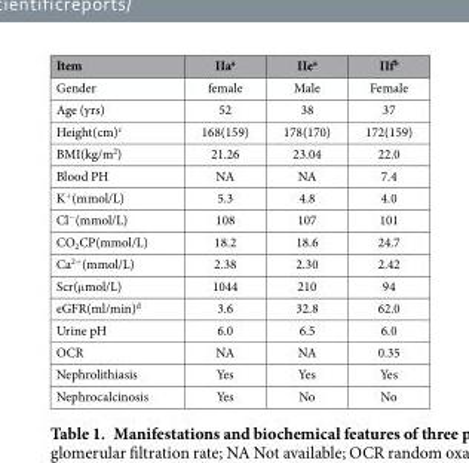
<table><thead><tr><td>Item</td><td>IIa<sup>a</sup></td><td>IIe<sup>a</sup></td><td>IIf<sup>b</sup></td></tr></thead><tbody><tr><td>Gender</td><td>female</td><td>Male</td><td>Female</td></tr><tr><td>Age (yrs)</td><td>52</td><td>38</td><td>37</td></tr><tr><td>Height(cm)<sup>c</sup></td><td>168(159)</td><td>178(170)</td><td>172(159)</td></tr><tr><td>BMI(kg/m<sup>2</sup>)</td><td>21.26</td><td>23.04</td><td>22.0</td></tr><tr><td>Blood PH</td><td>NA</td><td>NA</td><td>7.4</td></tr><tr><td>K<sup>+</sup>(mmol/L)</td><td>5.3</td><td>4.8</td><td>4.0</td></tr><tr><td>Cl<sup>−</sup>(mmol/L)</td><td>108</td><td>107</td><td>101</td></tr><tr><td>CO<sub>2</sub>CP(mmol/L)</td><td>18.2</td><td>18.6</td><td>24.7</td></tr><tr><td>Ca<sup>2+</sup>(mmol/L)</td><td>2.38</td><td>2.30</td><td>2.42</td></tr><tr><td>Scr(μ mol/L)</td><td>1044</td><td>210</td><td>94</td></tr><tr><td>eGFR(ml/min)<sup>d</sup></td><td>3.6</td><td>32.8</td><td>62.0</td></tr><tr><td>Urine pH</td><td>6.0</td><td>6.5</td><td>6.0</td></tr><tr><td>OCR</td><td>NA</td><td>NA</td><td>0.35</td></tr><tr><td>Nephrolithiasis</td><td>Yes</td><td>Yes</td><td>Yes</td></tr><tr><td>Nephrocalcinosis</td><td>Yes</td><td>No</td><td>No</td></tr></tbody></table>